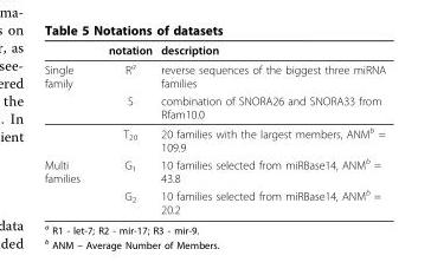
<table><thead><tr><td></td><td>notation</td><td>description</td></tr></thead><tbody><tr><td rowspan="3">Single family</td><td>R<sup>a</sup></td><td>reverse sequences of the biggest three miRNA families</td></tr><tr><td>S</td><td>combination of SNORA26 and SNORA33 from Rfam10.0</td></tr><tr><td>T<sub>20</sub></td><td>20 families with the largest members, ANM<sup>b</sup> = 109.9</td></tr><tr><td rowspan="2">Multi families</td><td>G<sub>1</sub></td><td>10 families selected from miRBase14, ANM<sup>b</sup> = 43.8</td></tr><tr><td>G<sub>2</sub></td><td>10 families selected from miRBase14, ANM<sup>b</sup> = 20.2</td></tr></tbody></table>